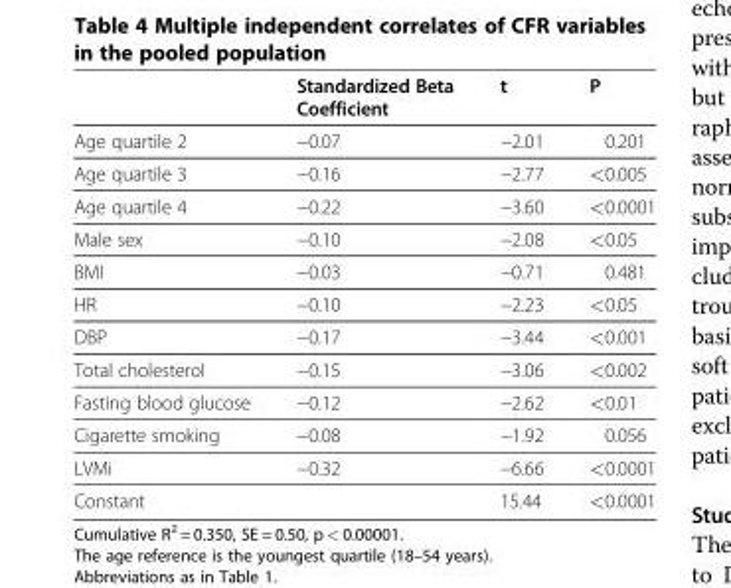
<table><thead><tr><td></td><td>Standardized Beta Coefficient</td><td>t</td><td>P</td></tr></thead><tbody><tr><td>Age quartile 2</td><td>−0.07</td><td>−2.01</td><td>0.201</td></tr><tr><td>Age quartile 3</td><td>−0.16</td><td>−2.77</td><td>&lt;0.005</td></tr><tr><td>Age quartile 4</td><td>−0.22</td><td>−3.60</td><td>&lt;0.0001</td></tr><tr><td>Male sex</td><td>−0.10</td><td>−2.08</td><td>&lt;0.05</td></tr><tr><td>BMI</td><td>−0.03</td><td>−0.71</td><td>0.481</td></tr><tr><td>HR</td><td>−0.10</td><td>−2.23</td><td>&lt;0.05</td></tr><tr><td>DBP</td><td>−0.17</td><td>−3.44</td><td>&lt;0.001</td></tr><tr><td>Total cholesterol</td><td>−0.15</td><td>−3.06</td><td>&lt;0.002</td></tr><tr><td>Fasting blood glucose</td><td>−0.12</td><td>−2.62</td><td>&lt;0.01</td></tr><tr><td>Cigarette smoking</td><td>−0.08</td><td>−1.92</td><td>0.056</td></tr><tr><td>LVMi</td><td>−0.32</td><td>−6.66</td><td>&lt;0.0001</td></tr><tr><td>Constant</td><td></td><td>15.44</td><td>&lt;0.0001</td></tr></tbody></table>